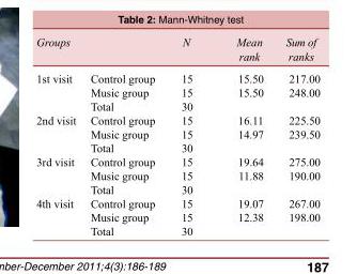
<table><tbody><tr><td>Groups</td><td></td><td>N</td><td>Mean rank</td><td>Sum of ranks</td></tr><tr><td rowspan="3">1st visit</td><td>Control group</td><td>15</td><td>15.50</td><td>217.00</td></tr><tr><td>Music group</td><td>15</td><td>15.50</td><td>248.00</td></tr><tr><td>Total</td><td>30</td><td></td><td></td></tr><tr><td rowspan="3">2nd visit</td><td>Control group</td><td>15</td><td>16.11</td><td>225.50</td></tr><tr><td>Music group</td><td>15</td><td>14.97</td><td>239.50</td></tr><tr><td>Total</td><td>30</td><td></td><td></td></tr><tr><td rowspan="3">3rd visit</td><td>Control group</td><td>15</td><td>19.64</td><td>275.00</td></tr><tr><td>Music group</td><td>15</td><td>11.88</td><td>190.00</td></tr><tr><td>Total</td><td>30</td><td></td><td></td></tr><tr><td rowspan="3">4th visit</td><td>Control group</td><td>15</td><td>19.07</td><td>267.00</td></tr><tr><td>Music group</td><td>15</td><td>12.38</td><td>198.00</td></tr><tr><td>Total</td><td>30</td><td></td><td></td></tr></tbody></table>